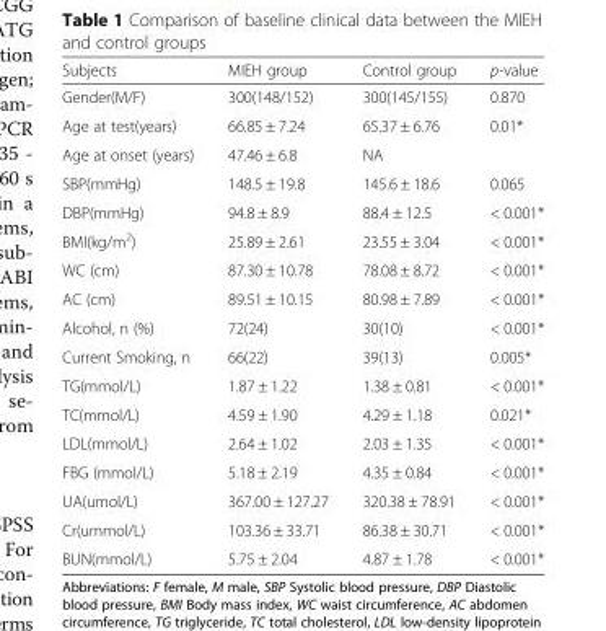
<table><thead><tr><td>Subjects</td><td>MIEH group</td><td>Control group</td><td>p-value</td></tr></thead><tbody><tr><td>Gender(M/F)</td><td>300(148/152)</td><td>300(145/155)</td><td>0.870</td></tr><tr><td>Age at test(years)</td><td>66.85 ± 7.24</td><td>65.37 ± 6.76</td><td>0.01*</td></tr><tr><td>Age at onset (years)</td><td>47.46 ± 6.8</td><td>NA</td><td></td></tr><tr><td>SBP(mmHg)</td><td>148.5 ± 19.8</td><td>145.6 ± 18.6</td><td>0.065</td></tr><tr><td>DBP(mmHg)</td><td>94.8 ± 8.9</td><td>88.4 ± 12.5</td><td>&lt; 0.001*</td></tr><tr><td>BMI(kg/m<sup>2</sup>)</td><td>25.89 ± 2.61</td><td>23.55 ± 3.04</td><td>&lt; 0.001*</td></tr><tr><td>WC (cm)</td><td>87.30 ± 10.78</td><td>78.08 ± 8.72</td><td>&lt; 0.001*</td></tr><tr><td>AC (cm)</td><td>89.51 ± 10.15</td><td>80.98 ± 7.89</td><td>&lt; 0.001*</td></tr><tr><td>Alcohol, n (%)</td><td>72(24)</td><td>30(10)</td><td>&lt; 0.001*</td></tr><tr><td>Current Smoking, n</td><td>66(22)</td><td>39(13)</td><td>0.005*</td></tr><tr><td>TG(mmol/L)</td><td>1.87 ± 1.22</td><td>1.38 ± 0.81</td><td>&lt; 0.001*</td></tr><tr><td>TC(mmol/L)</td><td>4.59 ± 1.90</td><td>4.29 ± 1.18</td><td>0.021*</td></tr><tr><td>LDL(mmol/L)</td><td>2.64 ± 1.02</td><td>2.03 ± 1.35</td><td>&lt; 0.001*</td></tr><tr><td>FBG (mmol/L)</td><td>5.18 ± 2.19</td><td>4.35 ± 0.84</td><td>&lt; 0.001*</td></tr><tr><td>UA(umol/L)</td><td>367.00 ± 127.27</td><td>320.38 ± 78.91</td><td>&lt; 0.001*</td></tr><tr><td>Cr(ummol/L)</td><td>103.36 ± 33.71</td><td>86.38 ± 30.71</td><td>&lt; 0.001*</td></tr><tr><td>BUN(mmol/L)</td><td>5.75 ± 2.04</td><td>4.87 ± 1.78</td><td>&lt; 0.001*</td></tr></tbody></table>